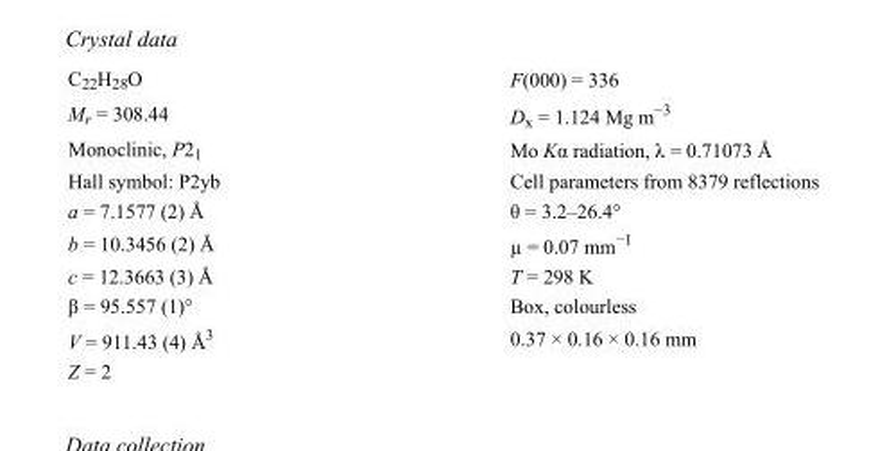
<table><tbody><tr><td>C<sub>22</sub>H<sub>28</sub>O</td><td>F(000) = 336</td></tr><tr><td>M<sub>r</sub> = 308.44</td><td>D<sub>x</sub> = 1.124 Mg m<sup>−3</sup></td></tr><tr><td>Monoclinic, P2<sub>1</sub></td><td>Mo Kα radiation, λ = 0.71073 Å</td></tr><tr><td>Hall symbol: P2yb</td><td>Cell parameters from 8379 reflections</td></tr><tr><td>a = 7.1577 (2) Å</td><td>θ = 3.2–26.4°</td></tr><tr><td>b = 10.3456 (2) Å</td><td>µ = 0.07 mm<sup>−1</sup></td></tr><tr><td>c = 12.3663 (3) Å</td><td>T = 298 K</td></tr><tr><td>β = 95.557 (1)°</td><td>Box, colourless</td></tr><tr><td>V = 911.43 (4) Å<sup>3</sup></td><td>0.37 × 0.16 × 0.16 mm</td></tr><tr><td>Z = 2</td><td></td></tr></tbody></table>